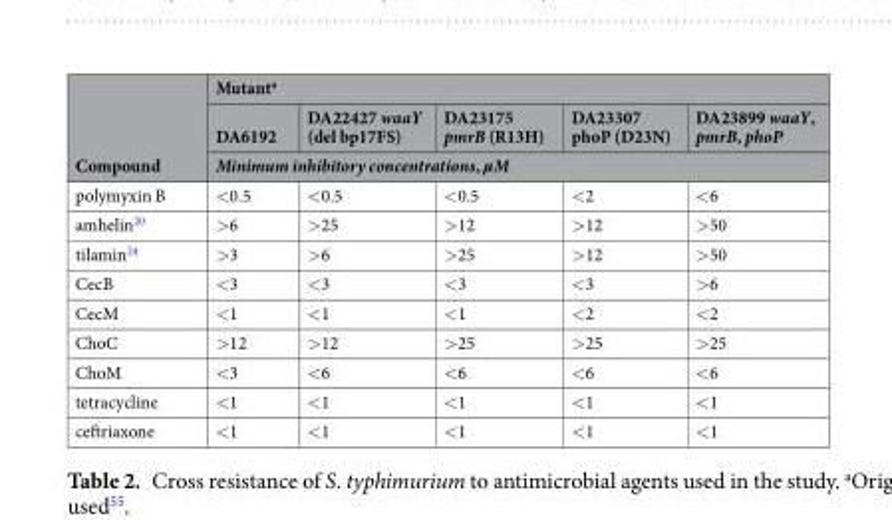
<table><thead><tr><td rowspan="3">Compound</td><td colspan="5">Mutant<sup>a</sup></td></tr><tr><td>DA6192</td><td>DA22427 waaY (del bp17FS)</td><td>DA23175 pmrB (R13H)</td><td>DA23307 phoP (D23N)</td><td>DA23899 waaY, pmrB, phoP</td></tr><tr><td colspan="5">Minimum inhibitory concentrations, µM</td></tr></thead><tbody><tr><td>polymyxin B</td><td>&lt;0.5</td><td>&lt;0.5</td><td>&lt;0.5</td><td>&lt;2</td><td>&lt;6</td></tr><tr><td>amhelin<sup>20</sup></td><td>&gt;6</td><td>&gt;25</td><td>&gt;12</td><td>&gt;12</td><td>&gt;50</td></tr><tr><td>tilamin<sup>24</sup></td><td>&gt;3</td><td>&gt;6</td><td>&gt;25</td><td>&gt;12</td><td>&gt;50</td></tr><tr><td>CecB</td><td>&lt;3</td><td>&lt;3</td><td>&lt;3</td><td>&lt;3</td><td>&gt;6</td></tr><tr><td>CecM</td><td>&lt;1</td><td>&lt;1</td><td>&lt;1</td><td>&lt;2</td><td>&lt;2</td></tr><tr><td>ChoC</td><td>&gt;12</td><td>&gt;12</td><td>&gt;25</td><td>&gt;25</td><td>&gt;25</td></tr><tr><td>ChoM</td><td>&lt;3</td><td>&lt;6</td><td>&lt;6</td><td>&lt;6</td><td>&lt;6</td></tr><tr><td>tetracycline</td><td>&lt;1</td><td>&lt;1</td><td>&lt;1</td><td>&lt;1</td><td>&lt;1</td></tr><tr><td>ceftriaxone</td><td>&lt;1</td><td>&lt;1</td><td>&lt;1</td><td>&lt;1</td><td>&lt;1</td></tr></tbody></table>